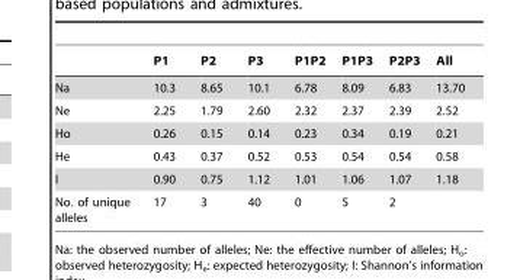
<table><thead><tr><td></td><td>P1</td><td>P2</td><td>P3</td><td>P1P2</td><td>P1P3</td><td>P2P3</td><td>All</td></tr></thead><tbody><tr><td>Na</td><td>10.3</td><td>8.65</td><td>10.1</td><td>6.78</td><td>8.09</td><td>6.83</td><td>13.70</td></tr><tr><td>Ne</td><td>2.25</td><td>1.79</td><td>2.60</td><td>2.32</td><td>2.37</td><td>2.39</td><td>2.52</td></tr><tr><td>Ho</td><td>0.26</td><td>0.15</td><td>0.14</td><td>0.23</td><td>0.34</td><td>0.19</td><td>0.21</td></tr><tr><td>He</td><td>0.43</td><td>0.37</td><td>0.52</td><td>0.53</td><td>0.54</td><td>0.54</td><td>0.58</td></tr><tr><td>I</td><td>0.90</td><td>0.75</td><td>1.12</td><td>1.01</td><td>1.06</td><td>1.07</td><td>1.18</td></tr><tr><td>No. of unique alleles</td><td>17</td><td>3</td><td>40</td><td>0</td><td>5</td><td>2</td><td></td></tr></tbody></table>